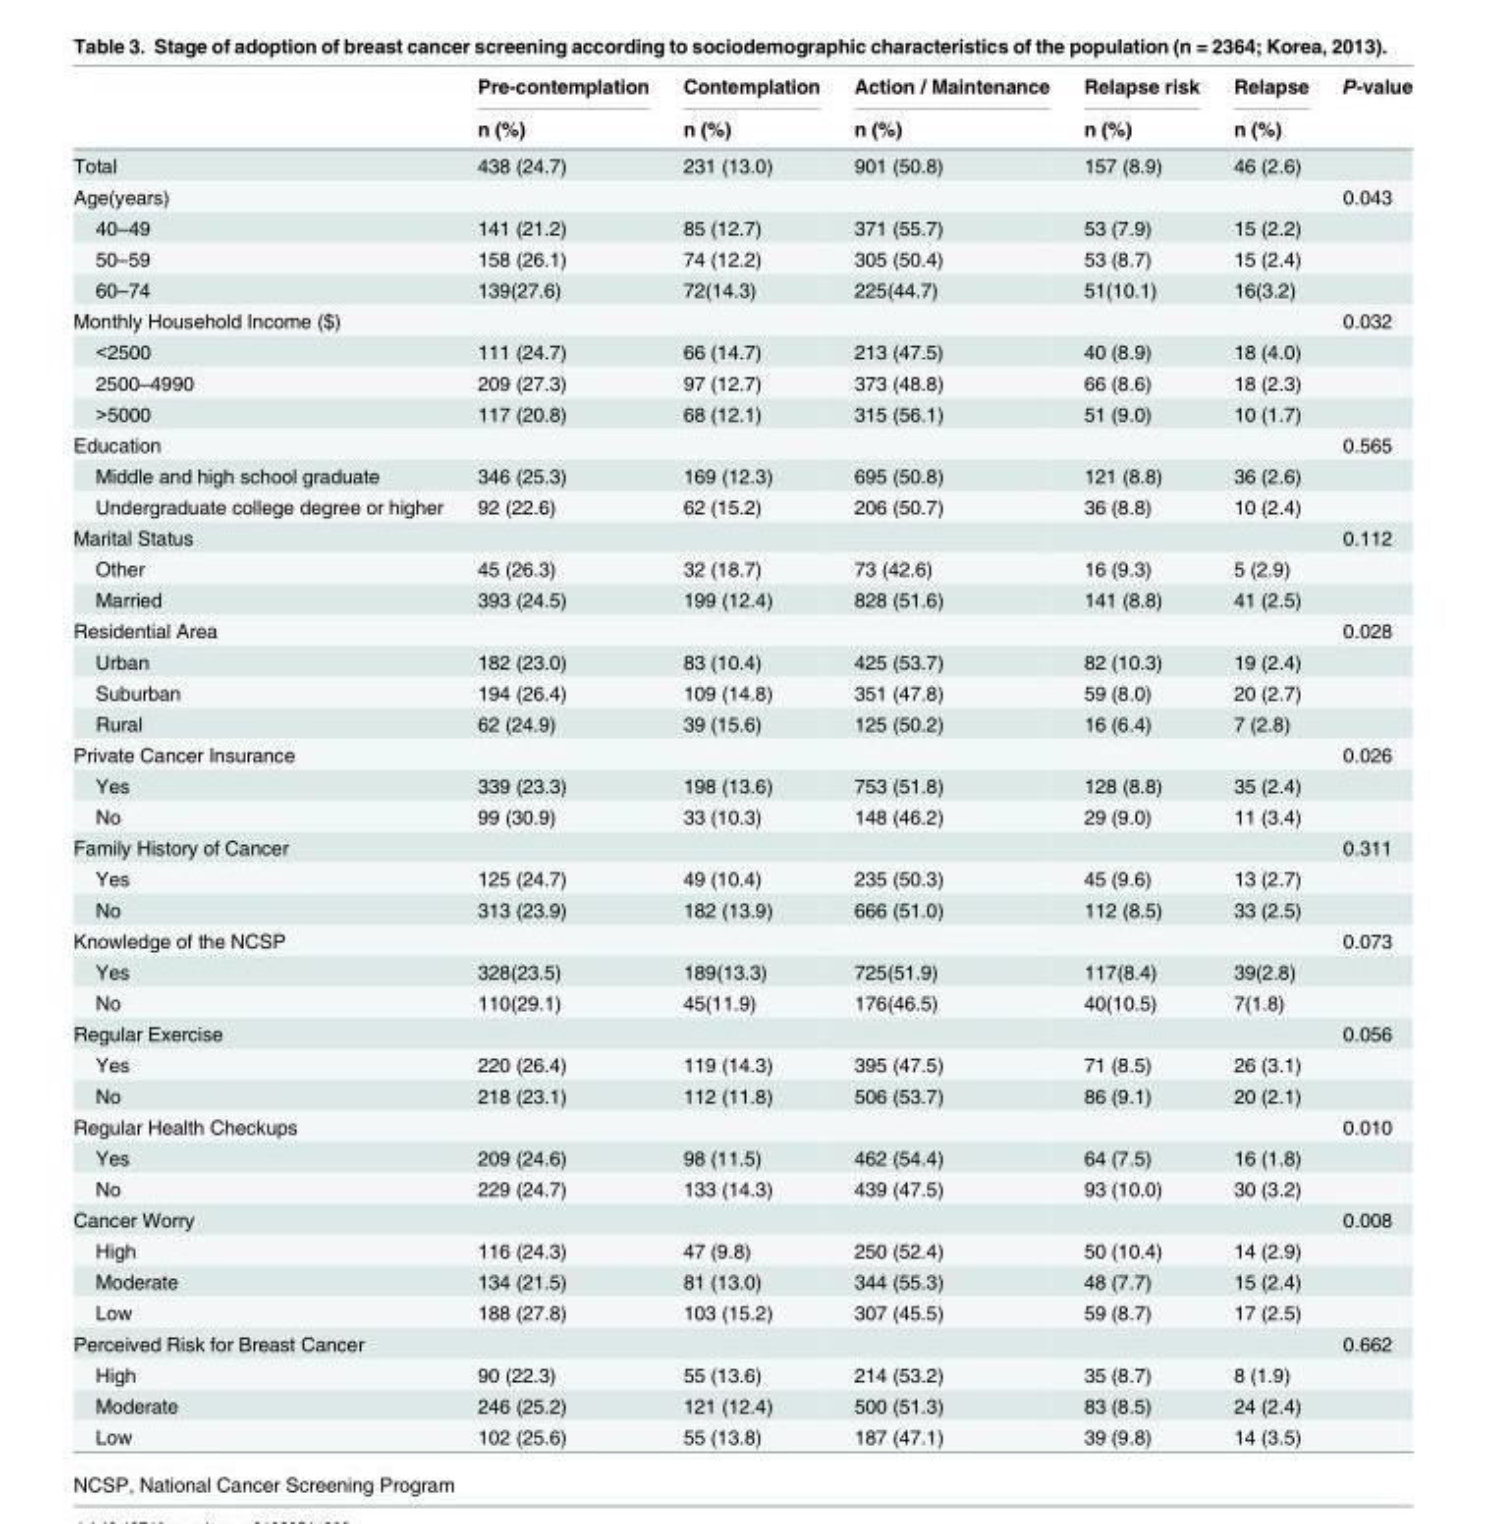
<table><thead><tr><td rowspan="2"></td><td rowspan="2">Pre-contemplation n (%)</td><td rowspan="2">Contemplation n (%)</td><td rowspan="2">Action / Maintenance n (%)</td><td rowspan="2">Relapse risk n (%)</td><td rowspan="2">Relapse n (%)</td><td rowspan="2">P-value</td></tr><tr></tr></thead><tbody><tr><td>Total</td><td>438 (24.7)</td><td>231 (13.0)</td><td>901 (50.8)</td><td>157 (8.9)</td><td>46 (2.6)</td><td></td></tr><tr><td>Age(years)</td><td></td><td></td><td></td><td></td><td></td><td>0.043</td></tr><tr><td>40–49</td><td>141 (21.2)</td><td>85 (12.7)</td><td>371 (55.7)</td><td>53 (7.9)</td><td>15 (2.2)</td><td></td></tr><tr><td>50–59</td><td>158 (26.1)</td><td>74 (12.2)</td><td>305 (50.4)</td><td>53 (8.7)</td><td>15 (2.4)</td><td></td></tr><tr><td>60–74</td><td>139(27.6)</td><td>72(14.3)</td><td>225(44.7)</td><td>51(10.1)</td><td>16(3.2)</td><td></td></tr><tr><td>Monthly Household Income ($)</td><td></td><td></td><td></td><td></td><td></td><td>0.032</td></tr><tr><td>&lt;2500</td><td>111 (24.7)</td><td>66 (14.7)</td><td>213 (47.5)</td><td>40 (8.9)</td><td>18 (4.0)</td><td></td></tr><tr><td>2500–4990</td><td>209 (27.3)</td><td>97 (12.7)</td><td>373 (48.8)</td><td>66 (8.6)</td><td>18 (2.3)</td><td></td></tr><tr><td>&gt;5000</td><td>117 (20.8)</td><td>68 (12.1)</td><td>315 (56.1)</td><td>51 (9.0)</td><td>10 (1.7)</td><td></td></tr><tr><td>Education</td><td></td><td></td><td></td><td></td><td></td><td>0.565</td></tr><tr><td>Middle and high school graduate</td><td>346 (25.3)</td><td>169 (12.3)</td><td>695 (50.8)</td><td>121 (8.8)</td><td>36 (2.6)</td><td></td></tr><tr><td>Undergraduate college degree or higher</td><td>92 (22.6)</td><td>62 (15.2)</td><td>206 (50.7)</td><td>36 (8.8)</td><td>10 (2.4)</td><td></td></tr><tr><td>Marital Status</td><td></td><td></td><td></td><td></td><td></td><td>0.112</td></tr><tr><td>Other</td><td>45 (26.3)</td><td>32 (18.7)</td><td>73 (42.6)</td><td>16 (9.3)</td><td>5 (2.9)</td><td></td></tr><tr><td>Married</td><td>393 (24.5)</td><td>199 (12.4)</td><td>828 (51.6)</td><td>141 (8.8)</td><td>41 (2.5)</td><td></td></tr><tr><td>Residential Area</td><td></td><td></td><td></td><td></td><td></td><td>0.028</td></tr><tr><td>Urban</td><td>182 (23.0)</td><td>83 (10.4)</td><td>425 (53.7)</td><td>82 (10.3)</td><td>19 (2.4)</td><td></td></tr><tr><td>Suburban</td><td>194 (26.4)</td><td>109 (14.8)</td><td>351 (47.8)</td><td>59 (8.0)</td><td>20 (2.7)</td><td></td></tr><tr><td>Rural</td><td>62 (24.9)</td><td>39 (15.6)</td><td>125 (50.2)</td><td>16 (6.4)</td><td>7 (2.8)</td><td></td></tr><tr><td>Private Cancer Insurance</td><td></td><td></td><td></td><td></td><td></td><td>0.026</td></tr><tr><td>Yes</td><td>339 (23.3)</td><td>198 (13.6)</td><td>753 (51.8)</td><td>128 (8.8)</td><td>35 (2.4)</td><td></td></tr><tr><td>No</td><td>99 (30.9)</td><td>33 (10.3)</td><td>148 (46.2)</td><td>29 (9.0)</td><td>11 (3.4)</td><td></td></tr><tr><td>Family History of Cancer</td><td></td><td></td><td></td><td></td><td></td><td>0.311</td></tr><tr><td>Yes</td><td>125 (24.7)</td><td>49 (10.4)</td><td>235 (50.3)</td><td>45 (9.6)</td><td>13 (2.7)</td><td></td></tr><tr><td>No</td><td>313 (23.9)</td><td>182 (13.9)</td><td>666 (51.0)</td><td>112 (8.5)</td><td>33 (2.5)</td><td></td></tr><tr><td>Knowledge of the NCSP</td><td></td><td></td><td></td><td></td><td></td><td>0.073</td></tr><tr><td>Yes</td><td>328(23.5)</td><td>189(13.3)</td><td>725(51.9)</td><td>117(8.4)</td><td>39(2.8)</td><td></td></tr><tr><td>No</td><td>110(29.1)</td><td>45(11.9)</td><td>176(46.5)</td><td>40(10.5)</td><td>7(1.8)</td><td></td></tr><tr><td>Regular Exercise</td><td></td><td></td><td></td><td></td><td></td><td>0.056</td></tr><tr><td>Yes</td><td>220 (26.4)</td><td>119 (14.3)</td><td>395 (47.5)</td><td>71 (8.5)</td><td>26 (3.1)</td><td></td></tr><tr><td>No</td><td>218 (23.1)</td><td>112 (11.8)</td><td>506 (53.7)</td><td>86 (9.1)</td><td>20 (2.1)</td><td></td></tr><tr><td>Regular Health Checkups</td><td></td><td></td><td></td><td></td><td></td><td>0.010</td></tr><tr><td>Yes</td><td>209 (24.6)</td><td>98 (11.5)</td><td>462 (54.4)</td><td>64 (7.5)</td><td>16 (1.8)</td><td></td></tr><tr><td>No</td><td>229 (24.7)</td><td>133 (14.3)</td><td>439 (47.5)</td><td>93 (10.0)</td><td>30 (3.2)</td><td></td></tr><tr><td>Cancer Worry</td><td></td><td></td><td></td><td></td><td></td><td>0.008</td></tr><tr><td>High</td><td>116 (24.3)</td><td>47 (9.8)</td><td>250 (52.4)</td><td>50 (10.4)</td><td>14 (2.9)</td><td></td></tr><tr><td>Moderate</td><td>134 (21.5)</td><td>81 (13.0)</td><td>344 (55.3)</td><td>48 (7.7)</td><td>15 (2.4)</td><td></td></tr><tr><td>Low</td><td>188 (27.8)</td><td>103 (15.2)</td><td>307 (45.5)</td><td>59 (8.7)</td><td>17 (2.5)</td><td></td></tr><tr><td>Perceived Risk for Breast Cancer</td><td></td><td></td><td></td><td></td><td></td><td>0.662</td></tr><tr><td>High</td><td>90 (22.3)</td><td>55 (13.6)</td><td>214 (53.2)</td><td>35 (8.7)</td><td>8 (1.9)</td><td></td></tr><tr><td>Moderate</td><td>246 (25.2)</td><td>121 (12.4)</td><td>500 (51.3)</td><td>83 (8.5)</td><td>24 (2.4)</td><td></td></tr><tr><td>Low</td><td>102 (25.6)</td><td>55 (13.8)</td><td>187 (47.1)</td><td>39 (9.8)</td><td>14 (3.5)</td><td></td></tr></tbody></table>